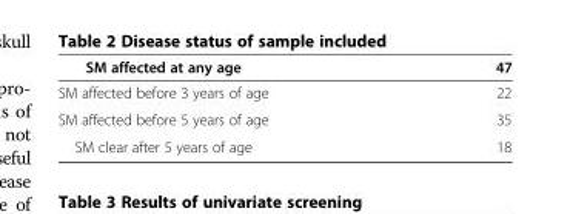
<table><thead><tr><td>SM affected at any age</td><td>47</td></tr></thead><tbody><tr><td>SM affected before 3 years of age</td><td>22</td></tr><tr><td>SM affected before 5 years of age</td><td>35</td></tr><tr><td>SM clear after 5 years of age</td><td>18</td></tr></tbody></table>